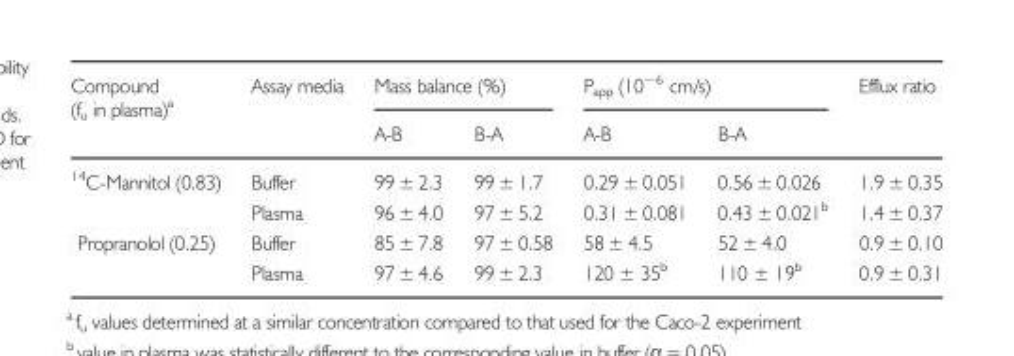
<table><thead><tr><td rowspan="2">Compound (f<sub>u</sub> in plasma)<sup>a</sup></td><td rowspan="2">Assay media</td><td colspan="2">Mass balance (%)</td><td colspan="2">P<sub>app</sub> (10<sup>−6</sup> cm/s)</td><td rowspan="2">Efflux ratio</td></tr><tr><td>A-B</td><td>B-A</td><td>A-B</td><td>B-A</td></tr></thead><tbody><tr><td rowspan="2"><sup>14</sup>C-Mannitol (0.83)</td><td>Buffer</td><td>99 ± 2.3</td><td>99 ± 1.7</td><td>0.29 ± 0.051</td><td>0.56 ± 0.026</td><td>1.9 ± 0.35</td></tr><tr><td>Plasma</td><td>96 ± 4.0</td><td>97 ± 5.2</td><td>0.31 ± 0.081</td><td>0.43 ± 0.021<sup>b</sup></td><td>1.4 ± 0.37</td></tr><tr><td rowspan="2">Propranolol (0.25)</td><td>Buffer</td><td>85 ± 7.8</td><td>97 ± 0.58</td><td>58 ± 4.5</td><td>52 ± 4.0</td><td>0.9 ± 0.10</td></tr><tr><td>Plasma</td><td>97 ± 4.6</td><td>99 ± 2.3</td><td>120 ± 35<sup>b</sup></td><td>110 ± 19<sup>b</sup></td><td>0.9 ± 0.31</td></tr></tbody></table>